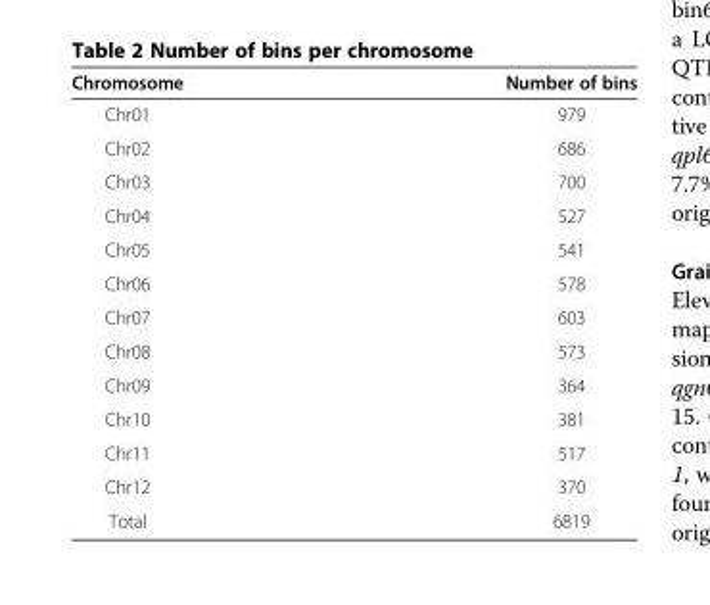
<table><thead><tr><td>Chromosome</td><td>Number of bins</td></tr></thead><tbody><tr><td>Chr01</td><td>979</td></tr><tr><td>Chr02</td><td>686</td></tr><tr><td>Chr03</td><td>700</td></tr><tr><td>Chr04</td><td>527</td></tr><tr><td>Chr05</td><td>541</td></tr><tr><td>Chr06</td><td>578</td></tr><tr><td>Chr07</td><td>603</td></tr><tr><td>Chr08</td><td>573</td></tr><tr><td>Chr09</td><td>364</td></tr><tr><td>Chr10</td><td>381</td></tr><tr><td>Chr11</td><td>517</td></tr><tr><td>Chr12</td><td>370</td></tr><tr><td>Total</td><td>6819</td></tr></tbody></table>